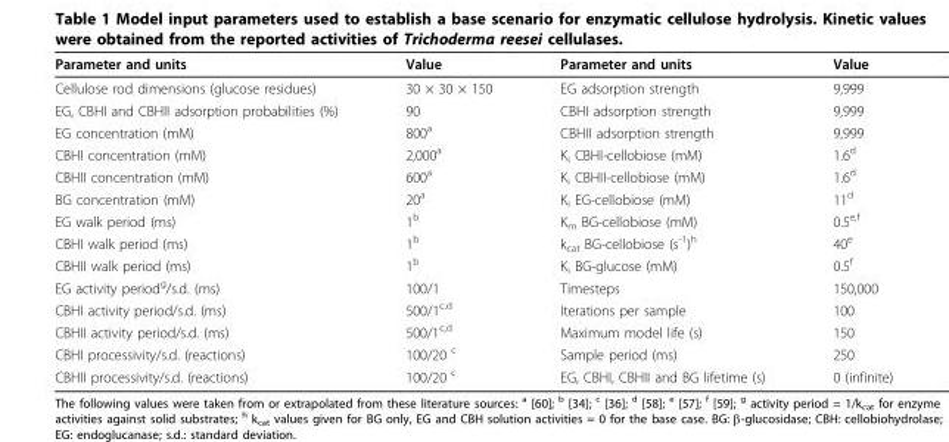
<table><thead><tr><td>Parameter and units</td><td>Value</td><td>Parameter and units</td><td>Value</td></tr></thead><tbody><tr><td>Cellulose rod dimensions (glucose residues)</td><td>30 × 30 × 150</td><td>EG adsorption strength</td><td>9,999</td></tr><tr><td>EG, CBHI and CBHII adsorption probabilities (%)</td><td>90</td><td>CBHI adsorption strength</td><td>9,999</td></tr><tr><td>EG concentration (mM)</td><td>800<sup>a</sup></td><td>CBHII adsorption strength</td><td>9,999</td></tr><tr><td>CBHI concentration (mM)</td><td>2,000<sup>a</sup></td><td>K<sub>i</sub> CBHI-cellobiose (mM)</td><td>1.6<sup>d</sup></td></tr><tr><td>CBHII concentration (mM)</td><td>600<sup>a</sup></td><td>K<sub>i</sub> CBHII-cellobiose (mM)</td><td>1.6<sup>d</sup></td></tr><tr><td>BG concentration (mM)</td><td>20<sup>a</sup></td><td>K<sub>i</sub> EG-cellobiose (mM)</td><td>11<sup>d</sup></td></tr><tr><td>EG walk period (ms)</td><td>1<sup>b</sup></td><td>K<sub>m</sub> BG-cellobiose (mM)</td><td>0.5<sup>e,f</sup></td></tr><tr><td>CBHI walk period (ms)</td><td>1<sup>b</sup></td><td>k<sub>cat</sub> BG-cellobiose (s<sup>-1</sup>)<sup>h</sup></td><td>40<sup>e</sup></td></tr><tr><td>CBHII walk period (ms)</td><td>1<sup>b</sup></td><td>K<sub>i</sub> BG-glucose (mM)</td><td>0.5<sup>f</sup></td></tr><tr><td>EG activity period<sup>g</sup>/s.d. (ms)</td><td>100/1</td><td>Timesteps</td><td>150,000</td></tr><tr><td>CBHI activity period/s.d. (ms)</td><td>500/1<sup>c,d</sup></td><td>Iterations per sample</td><td>100</td></tr><tr><td>CBHII activity period/s.d. (ms)</td><td>500/1<sup>c,d</sup></td><td>Maximum model life (s)</td><td>150</td></tr><tr><td>CBHI processivity/s.d. (reactions)</td><td>100/20 <sup>c</sup></td><td>Sample period (ms)</td><td>250</td></tr><tr><td>CBHII processivity/s.d. (reactions)</td><td>100/20 <sup>c</sup></td><td>EG, CBHI, CBHII and BG lifetime (s)</td><td>0 (infinite)</td></tr></tbody></table>